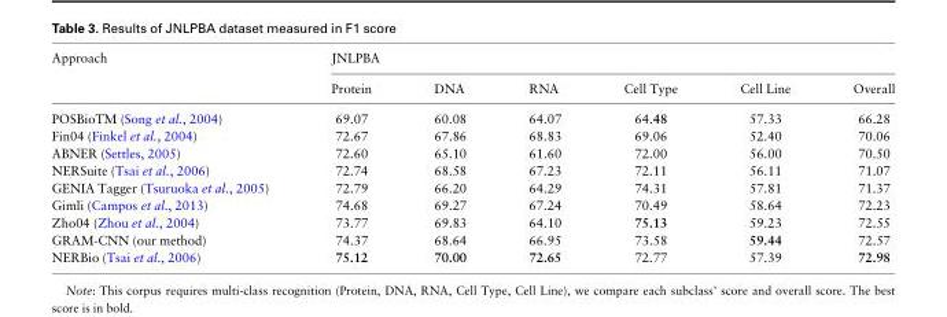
<table><thead><tr><td rowspan="2">Approach</td><td colspan="6">JNLPBA</td></tr><tr><td>Protein</td><td>DNA</td><td>RNA</td><td>Cell Type</td><td>Cell Line</td><td>Overall</td></tr></thead><tbody><tr><td>POSBioTM (Song et al., 2004)</td><td>69.07</td><td>60.08</td><td>64.07</td><td>64.48</td><td>57.33</td><td>66.28</td></tr><tr><td>Fin04 (Finkel et al., 2004)</td><td>72.67</td><td>67.86</td><td>68.83</td><td>69.06</td><td>52.40</td><td>70.06</td></tr><tr><td>ABNER (Settles, 2005)</td><td>72.60</td><td>65.10</td><td>61.60</td><td>72.00</td><td>56.00</td><td>70.50</td></tr><tr><td>NERSuite (Tsai et al., 2006)</td><td>72.74</td><td>68.58</td><td>67.23</td><td>72.11</td><td>56.11</td><td>71.07</td></tr><tr><td>GENIA Tagger (Tsuruoka et al., 2005)</td><td>72.79</td><td>66.20</td><td>64.29</td><td>74.31</td><td>57.81</td><td>71.37</td></tr><tr><td>Gimli (Campos et al., 2013)</td><td>74.68</td><td>69.27</td><td>67.24</td><td>70.49</td><td>58.64</td><td>72.23</td></tr><tr><td>Zho04 (Zhou et al., 2004)</td><td>73.77</td><td>69.83</td><td>64.10</td><td>75.13</td><td>59.23</td><td>72.55</td></tr><tr><td>GRAM-CNN (our method)</td><td>74.37</td><td>68.64</td><td>66.95</td><td>73.58</td><td>59.44</td><td>72.57</td></tr><tr><td>NERBio (Tsai et al., 2006)</td><td>75.12</td><td>70.00</td><td>72.65</td><td>72.77</td><td>57.39</td><td>72.98</td></tr></tbody></table>